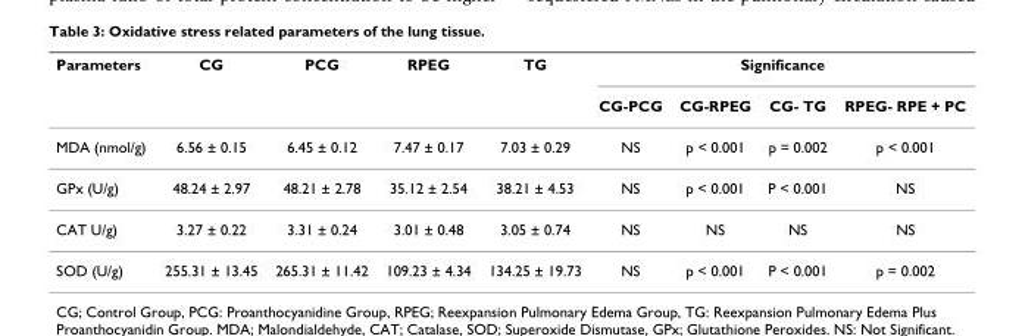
<table><thead><tr><td rowspan="2">Parameters</td><td rowspan="2">CG</td><td rowspan="2">PCG</td><td rowspan="2">RPEG</td><td rowspan="2">TG</td><td colspan="4">Significance</td></tr><tr><td>CG-PCG</td><td>CG-RPEG</td><td>CG- TG</td><td>RPEG- RPE + PC</td></tr></thead><tbody><tr><td>MDA (nmol/g)</td><td>6.56 ± 0.15</td><td>6.45 ± 0.12</td><td>7.47 ± 0.17</td><td>7.03 ± 0.29</td><td>NS</td><td>p &lt; 0.001</td><td>p = 0.002</td><td>p &lt; 0.001</td></tr><tr><td>GPx (U/g)</td><td>48.24 ± 2.97</td><td>48.21 ± 2.78</td><td>35.12 ± 2.54</td><td>38.21 ± 4.53</td><td>NS</td><td>p &lt; 0.001</td><td>P &lt; 0.001</td><td>NS</td></tr><tr><td>CAT U/g)</td><td>3.27 ± 0.22</td><td>3.31 ± 0.24</td><td>3.01 ± 0.48</td><td>3.05 ± 0.74</td><td>NS</td><td>NS</td><td>NS</td><td>NS</td></tr><tr><td>SOD (U/g)</td><td>255.31 ± 13.45</td><td>265.31 ± 11.42</td><td>109.23 ± 4.34</td><td>134.25 ± 19.73</td><td>NS</td><td>p &lt; 0.001</td><td>P &lt; 0.001</td><td>p = 0.002</td></tr></tbody></table>